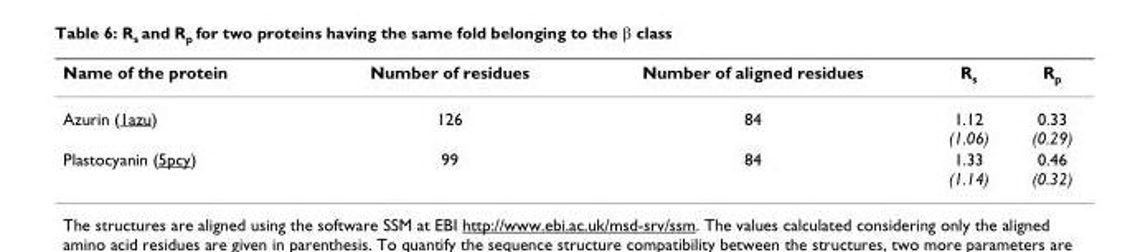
<table><thead><tr><td>Name of the protein</td><td>Number of residues</td><td>Number of aligned residues</td><td>R<sub>s</sub></td><td>R<sub>p</sub></td></tr></thead><tbody><tr><td>Azurin (1azu)</td><td>126</td><td>84</td><td>1.12 (1.06)</td><td>0.33 (0.29)</td></tr><tr><td>Plastocyanin (5pcy)</td><td>99</td><td>84</td><td>1.33 (1.14)</td><td>0.46 (0.32)</td></tr></tbody></table>